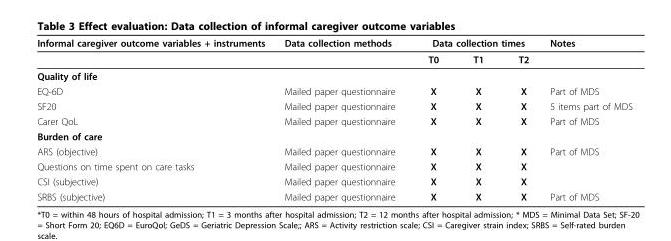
<table><thead><tr><td rowspan="2">Informal caregiver outcome variables + instruments</td><td rowspan="2">Data collection methods</td><td colspan="3">Data collection times</td><td rowspan="2">Notes</td></tr><tr><td>T0</td><td>T1</td><td>T2</td></tr></thead><tbody><tr><td colspan="6">Quality of life</td></tr><tr><td>EQ-6D</td><td>Mailed paper questionnaire</td><td>X</td><td>X</td><td>X</td><td>Part of MDS</td></tr><tr><td>SF20</td><td>Mailed paper questionnaire</td><td>X</td><td>X</td><td>X</td><td>5 items part of MDS</td></tr><tr><td>Carer QoL</td><td>Mailed paper questionnaire</td><td>X</td><td>X</td><td>X</td><td>Part of MDS</td></tr><tr><td colspan="6">Burden of care</td></tr><tr><td>ARS (objective)</td><td>Mailed paper questionnaire</td><td>X</td><td>X</td><td>X</td><td>Part of MDS</td></tr><tr><td>Questions on time spent on care tasks</td><td>Mailed paper questionnaire</td><td>X</td><td>X</td><td>X</td><td></td></tr><tr><td>CSI (subjective)</td><td>Mailed paper questionnaire</td><td>X</td><td>X</td><td>X</td><td></td></tr><tr><td>SRBS (subjective)</td><td>Mailed paper questionnaire</td><td>X</td><td>X</td><td>X</td><td>Part of MDS</td></tr></tbody></table>